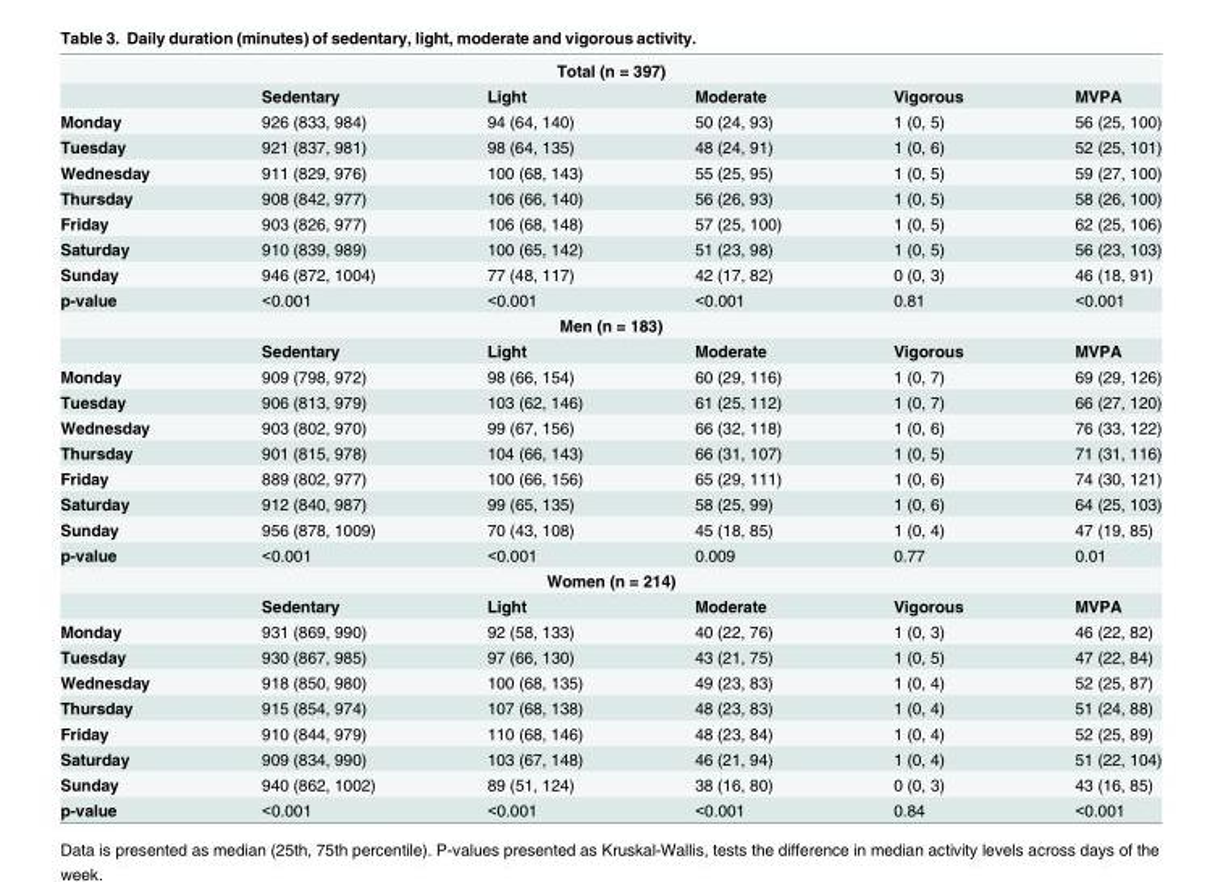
<table><tbody><tr><td colspan="6">Total (n = 397)</td></tr><tr><td></td><td>Sedentary</td><td>Light</td><td>Moderate</td><td>Vigorous</td><td>MVPA</td></tr><tr><td>Monday</td><td>926 (833, 984)</td><td>94 (64, 140)</td><td>50 (24, 93)</td><td>1 (0, 5)</td><td>56 (25, 100)</td></tr><tr><td>Tuesday</td><td>921 (837, 981)</td><td>98 (64, 135)</td><td>48 (24, 91)</td><td>1 (0, 6)</td><td>52 (25, 101)</td></tr><tr><td>Wednesday</td><td>911 (829, 976)</td><td>100 (68, 143)</td><td>55 (25, 95)</td><td>1 (0, 5)</td><td>59 (27, 100)</td></tr><tr><td>Thursday</td><td>908 (842, 977)</td><td>106 (66, 140)</td><td>56 (26, 93)</td><td>1 (0, 5)</td><td>58 (26, 100)</td></tr><tr><td>Friday</td><td>903 (826, 977)</td><td>106 (68, 148)</td><td>57 (25, 100)</td><td>1 (0, 5)</td><td>62 (25, 106)</td></tr><tr><td>Saturday</td><td>910 (839, 989)</td><td>100 (65, 142)</td><td>51 (23, 98)</td><td>1 (0, 5)</td><td>56 (23, 103)</td></tr><tr><td>Sunday</td><td>946 (872, 1004)</td><td>77 (48, 117)</td><td>42 (17, 82)</td><td>0 (0, 3)</td><td>46 (18, 91)</td></tr><tr><td>p-value</td><td>&lt;0.001</td><td>&lt;0.001</td><td>&lt;0.001</td><td>0.81</td><td>&lt;0.001</td></tr><tr><td colspan="6">Men (n = 183)</td></tr><tr><td></td><td>Sedentary</td><td>Light</td><td>Moderate</td><td>Vigorous</td><td>MVPA</td></tr><tr><td>Monday</td><td>909 (798, 972)</td><td>98 (66, 154)</td><td>60 (29, 116)</td><td>1 (0, 7)</td><td>69 (29, 126)</td></tr><tr><td>Tuesday</td><td>906 (813, 979)</td><td>103 (62, 146)</td><td>61 (25, 112)</td><td>1 (0, 7)</td><td>66 (27, 120)</td></tr><tr><td>Wednesday</td><td>903 (802, 970)</td><td>99 (67, 156)</td><td>66 (32, 118)</td><td>1 (0, 6)</td><td>76 (33, 122)</td></tr><tr><td>Thursday</td><td>901 (815, 978)</td><td>104 (66, 143)</td><td>66 (31, 107)</td><td>1 (0, 5)</td><td>71 (31, 116)</td></tr><tr><td>Friday</td><td>889 (802, 977)</td><td>100 (66, 156)</td><td>65 (29, 111)</td><td>1 (0, 6)</td><td>74 (30, 121)</td></tr><tr><td>Saturday</td><td>912 (840, 987)</td><td>99 (65, 135)</td><td>58 (25, 99)</td><td>1 (0, 6)</td><td>64 (25, 103)</td></tr><tr><td>Sunday</td><td>956 (878, 1009)</td><td>70 (43, 108)</td><td>45 (18, 85)</td><td>1 (0, 4)</td><td>47 (19, 85)</td></tr><tr><td>p-value</td><td>&lt;0.001</td><td>&lt;0.001</td><td>0.009</td><td>0.77</td><td>0.01</td></tr><tr><td colspan="6">Women (n = 214)</td></tr><tr><td></td><td>Sedentary</td><td>Light</td><td>Moderate</td><td>Vigorous</td><td>MVPA</td></tr><tr><td>Monday</td><td>931 (869, 990)</td><td>92 (58, 133)</td><td>40 (22, 76)</td><td>1 (0, 3)</td><td>46 (22, 82)</td></tr><tr><td>Tuesday</td><td>930 (867, 985)</td><td>97 (66, 130)</td><td>43 (21, 75)</td><td>1 (0, 5)</td><td>47 (22, 84)</td></tr><tr><td>Wednesday</td><td>918 (850, 980)</td><td>100 (68, 135)</td><td>49 (23, 83)</td><td>1 (0, 4)</td><td>52 (25, 87)</td></tr><tr><td>Thursday</td><td>915 (854, 974)</td><td>107 (68, 138)</td><td>48 (23, 83)</td><td>1 (0, 4)</td><td>51 (24, 88)</td></tr><tr><td>Friday</td><td>910 (844, 979)</td><td>110 (68, 146)</td><td>48 (23, 84)</td><td>1 (0, 4)</td><td>52 (25, 89)</td></tr><tr><td>Saturday</td><td>909 (834, 990)</td><td>103 (67, 148)</td><td>46 (21, 94)</td><td>1 (0, 4)</td><td>51 (22, 104)</td></tr><tr><td>Sunday</td><td>940 (862, 1002)</td><td>89 (51, 124)</td><td>38 (16, 80)</td><td>0 (0, 3)</td><td>43 (16, 85)</td></tr><tr><td>p-value</td><td>&lt;0.001</td><td>&lt;0.001</td><td>&lt;0.001</td><td>0.84</td><td>&lt;0.001</td></tr></tbody></table>